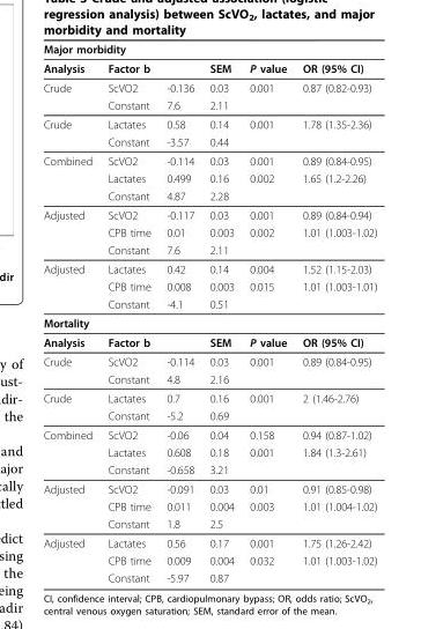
<table><thead><tr><td colspan="2">Major morbidity</td><td rowspan="2"></td><td rowspan="2">SEM</td><td rowspan="2">P value</td><td rowspan="2">OR (95% CI)</td></tr><tr><td>Analysis</td><td>Factor b</td></tr></thead><tbody><tr><td rowspan="2">Crude</td><td>ScVO2</td><td>-0.136</td><td>0.03</td><td>0.001</td><td>0.87 (0.82-0.93)</td></tr><tr><td>Constant</td><td>7.6</td><td>2.11</td><td></td><td></td></tr><tr><td rowspan="2">Crude</td><td>Lactates</td><td>0.58</td><td>0.14</td><td>0.001</td><td>1.78 (1.35-2.36)</td></tr><tr><td>Constant</td><td>-3.57</td><td>0.44</td><td></td><td></td></tr><tr><td rowspan="3">Combined</td><td>ScVO2</td><td>-0.114</td><td>0.03</td><td>0.001</td><td>0.89 (0.84-0.95)</td></tr><tr><td>Lactates</td><td>0.499</td><td>0.16</td><td>0.002</td><td>1.65 (1.2-2.26)</td></tr><tr><td>Constant</td><td>4.87</td><td>2.28</td><td></td><td></td></tr><tr><td rowspan="3">Adjusted</td><td>ScVO2</td><td>-0.117</td><td>0.03</td><td>0.001</td><td>0.89 (0.84-0.94)</td></tr><tr><td>CPB time</td><td>0.01</td><td>0.003</td><td>0.002</td><td>1.01 (1.003-1.02)</td></tr><tr><td>Constant</td><td>7.6</td><td>2.11</td><td></td><td></td></tr><tr><td rowspan="3">Adjusted</td><td>Lactates</td><td>0.42</td><td>0.14</td><td>0.004</td><td>1.52 (1.15-2.03)</td></tr><tr><td>CPB time</td><td>0.008</td><td>0.003</td><td>0.015</td><td>1.01 (1.003-1.01)</td></tr><tr><td>Constant</td><td>-4.1</td><td>0.51</td><td></td><td></td></tr><tr><td colspan="6">Mortality</td></tr><tr><td>Analysis</td><td>Factor b</td><td></td><td>SEM</td><td>P value</td><td>OR (95% CI)</td></tr><tr><td rowspan="2">Crude</td><td>ScVO2</td><td>-0.114</td><td>0.03</td><td>0.001</td><td>0.89 (0.84-0.95)</td></tr><tr><td>Constant</td><td>4.8</td><td>2.16</td><td></td><td></td></tr><tr><td rowspan="2">Crude</td><td>Lactates</td><td>0.7</td><td>0.16</td><td>0.001</td><td>2 (1.46-2.76)</td></tr><tr><td>Constant</td><td>-5.2</td><td>0.69</td><td></td><td></td></tr><tr><td rowspan="3">Combined</td><td>ScVO2</td><td>-0.06</td><td>0.04</td><td>0.158</td><td>0.94 (0.87-1.02)</td></tr><tr><td>Lactates</td><td>0.608</td><td>0.18</td><td>0.001</td><td>1.84 (1.3-2.61)</td></tr><tr><td>Constant</td><td>-0.658</td><td>3.21</td><td></td><td></td></tr><tr><td rowspan="3">Adjusted</td><td>ScVO2</td><td>-0.091</td><td>0.03</td><td>0.01</td><td>0.91 (0.85-0.98)</td></tr><tr><td>CPB time</td><td>0.011</td><td>0.004</td><td>0.003</td><td>1.01 (1.004-1.02)</td></tr><tr><td>Constant</td><td>1.8</td><td>2.5</td><td></td><td></td></tr><tr><td rowspan="3">Adjusted</td><td>Lactates</td><td>0.56</td><td>0.17</td><td>0.001</td><td>1.75 (1.26-2.42)</td></tr><tr><td>CPB time</td><td>0.009</td><td>0.004</td><td>0.032</td><td>1.01 (1.003-1.02)</td></tr><tr><td>Constant</td><td>-5.97</td><td>0.87</td><td></td><td></td></tr></tbody></table>